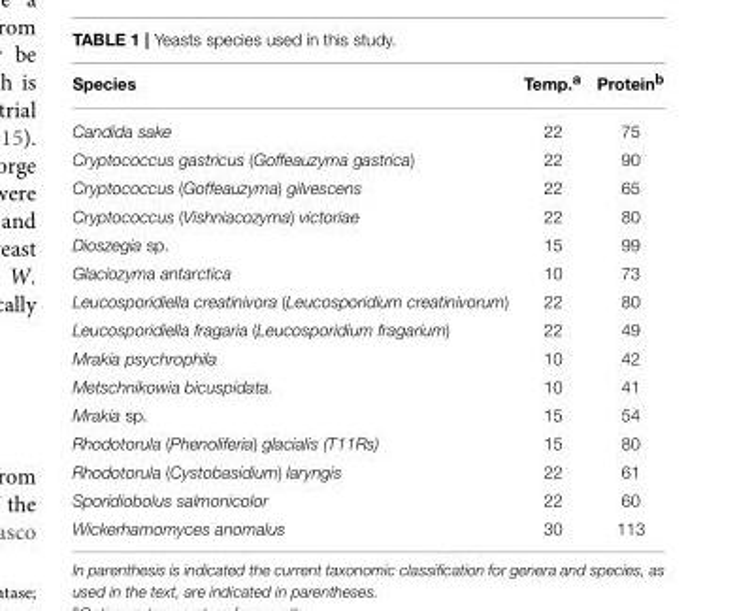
<table><thead><tr><td>Species</td><td>Temp.<sup>a</sup></td><td>Protein<sup>b</sup></td></tr></thead><tbody><tr><td>Candida sake</td><td>22</td><td>75</td></tr><tr><td>Cryptococcus gastricus (Goffeauzyma gastrica)</td><td>22</td><td>90</td></tr><tr><td>Cryptococcus (Goffeauzyma) gilvescens</td><td>22</td><td>65</td></tr><tr><td>Cryptococcus (Vishniacozyma) victoriae</td><td>22</td><td>80</td></tr><tr><td>Dioszegia sp.</td><td>15</td><td>99</td></tr><tr><td>Glaciozyma antarctica</td><td>10</td><td>73</td></tr><tr><td>Leucosporidiella creatinivora (Leucosporidium creatinivorum)</td><td>22</td><td>80</td></tr><tr><td>Leucosporidiella fragaria (Leucosporidium fragarium)</td><td>22</td><td>49</td></tr><tr><td>Mrakia psychrophila</td><td>10</td><td>42</td></tr><tr><td>Metschnikowia bicuspidata.</td><td>10</td><td>41</td></tr><tr><td>Mrakia sp.</td><td>15</td><td>54</td></tr><tr><td>Rhodotorula (Phenoliferia) glacialis (T11Rs)</td><td>15</td><td>80</td></tr><tr><td>Rhodotorula (Cystobasidium) laryngis</td><td>22</td><td>61</td></tr><tr><td>Sporidiobolus salmonicolor</td><td>22</td><td>60</td></tr><tr><td>Wickerhamomyces anomalus</td><td>30</td><td>113</td></tr></tbody></table>